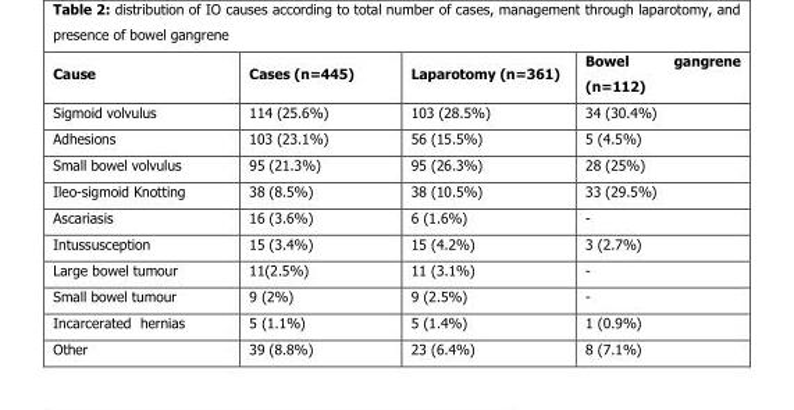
<table><thead><tr><td>Cause</td><td>Cases (n=445)</td><td>Laparotomy (n=361)</td><td>Bowel gangrene (n=112)</td></tr></thead><tbody><tr><td>Sigmoid volvulus</td><td>114 (25.6%)</td><td>103 (28.5%)</td><td>34 (30.4%)</td></tr><tr><td>Adhesions</td><td>103 (23.1%)</td><td>56 (15.5%)</td><td>5 (4.5%)</td></tr><tr><td>Small bowel volvulus</td><td>95 (21.3%)</td><td>95 (26.3%)</td><td>28 (25%)</td></tr><tr><td>Ileo-sigmoid Knotting</td><td>38 (8.5%)</td><td>38 (10.5%)</td><td>33 (29.5%)</td></tr><tr><td>Ascariasis</td><td>16 (3.6%)</td><td>6 (1.6%)</td><td>-</td></tr><tr><td>Intussusception</td><td>15 (3.4%)</td><td>15 (4.2%)</td><td>3 (2.7%)</td></tr><tr><td>Large bowel tumour</td><td>11(2.5%)</td><td>11 (3.1%)</td><td>-</td></tr><tr><td>Small bowel tumour</td><td>9 (2%)</td><td>9 (2.5%)</td><td>-</td></tr><tr><td>Incarcerated hernias</td><td>5 (1.1%)</td><td>5 (1.4%)</td><td>1 (0.9%)</td></tr><tr><td>Other</td><td>39 (8.8%)</td><td>23 (6.4%)</td><td>8 (7.1%)</td></tr></tbody></table>